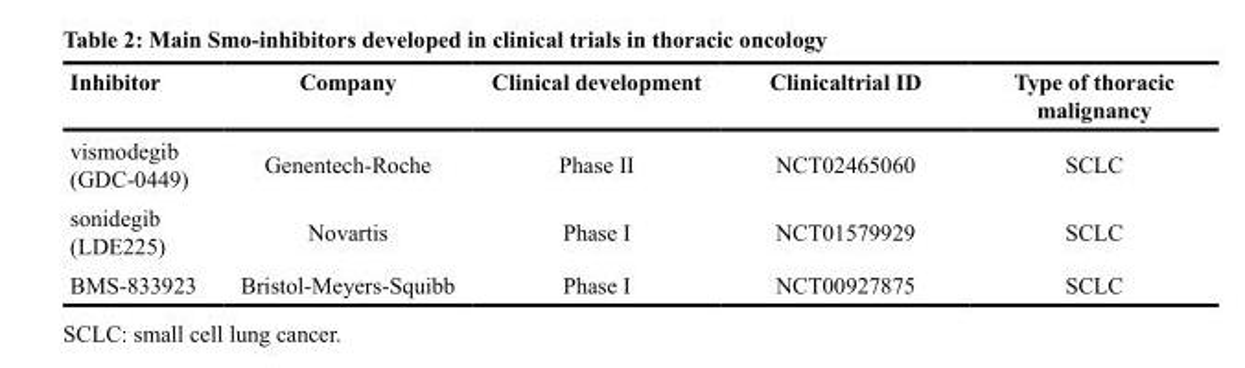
<table><thead><tr><td>Inhibitor</td><td>Company</td><td>Clinical development</td><td>Clinicaltrial ID</td><td>Type of thoracic malignancy</td></tr></thead><tbody><tr><td>vismodegib (GDC-0449)</td><td>Genentech-Roche</td><td>Phase II</td><td>NCT02465060</td><td>SCLC</td></tr><tr><td>sonidegib (LDE225)</td><td>Novartis</td><td>Phase I</td><td>NCT01579929</td><td>SCLC</td></tr><tr><td>BMS-833923</td><td>Bristol-Meyers-Squibb</td><td>Phase I</td><td>NCT00927875</td><td>SCLC</td></tr></tbody></table>